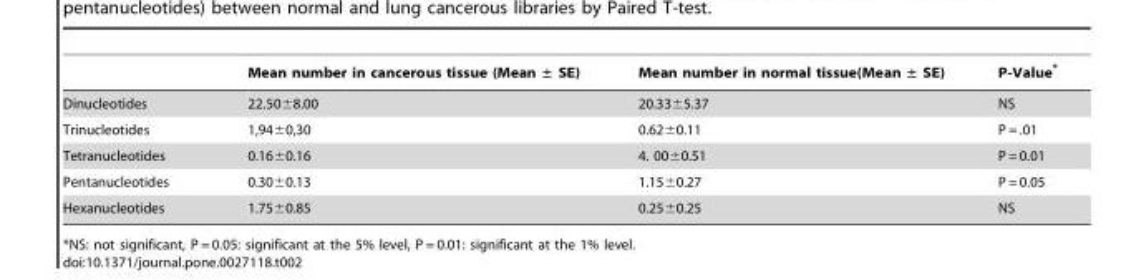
<table><thead><tr><td></td><td>Mean number in cancerous tissue (Mean ± SE)</td><td>Mean number in normal tissue(Mean ± SE)</td><td>P-Value*</td></tr></thead><tbody><tr><td>Dinucleotides</td><td>22.50±8.00</td><td>20.33±5.37</td><td>NS</td></tr><tr><td>Trinucleotides</td><td>1,94±0,30</td><td>0.62±0.11</td><td>P = .01</td></tr><tr><td>Tetranucleotides</td><td>0.16±0.16</td><td>4. 00±0.51</td><td>P = 0.01</td></tr><tr><td>Pentanucleotides</td><td>0.30±0.13</td><td>1.15±0.27</td><td>P = 0.05</td></tr><tr><td>Hexanucleotides</td><td>1.75±0.85</td><td>0.25±0.25</td><td>NS</td></tr></tbody></table>